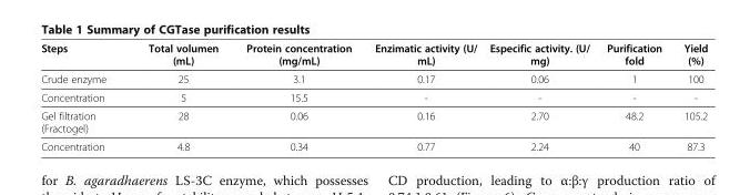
<table><thead><tr><td>Steps</td><td>Total volumen (mL)</td><td>Protein concentration (mg/mL)</td><td>Enzimatic activity (U/ mL)</td><td>Especific activity. (U/ mg)</td><td>Purification fold</td><td>Yield (%)</td></tr></thead><tbody><tr><td>Crude enzyme</td><td>25</td><td>3.1</td><td>0.17</td><td>0.06</td><td>1</td><td>100</td></tr><tr><td>Concentration</td><td>5</td><td>15.5</td><td>-</td><td>-</td><td>-</td><td>-</td></tr><tr><td>Gel filtration (Fractogel)</td><td>28</td><td>0.06</td><td>0.16</td><td>2.70</td><td>48.2</td><td>105.2</td></tr><tr><td>Concentration</td><td>4.8</td><td>0.34</td><td>0.77</td><td>2.24</td><td>40</td><td>87.3</td></tr></tbody></table>